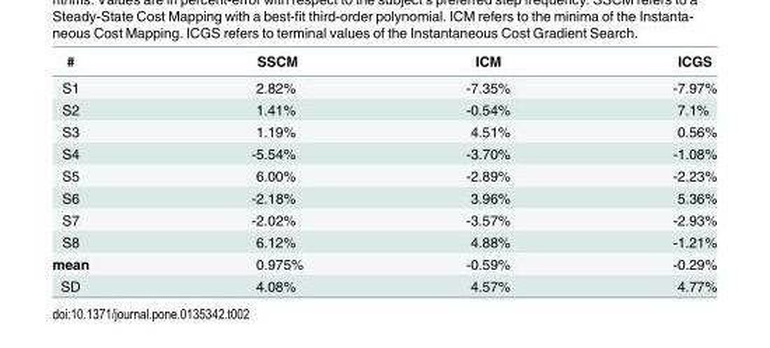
<table><thead><tr><td>#</td><td>SSCM</td><td>ICM</td><td>ICGS</td></tr></thead><tbody><tr><td>S1</td><td>2.82%</td><td>-7.35%</td><td>-7.97%</td></tr><tr><td>S2</td><td>1.41%</td><td>-0.54%</td><td>7.1%</td></tr><tr><td>S3</td><td>1.19%</td><td>4.51%</td><td>0.56%</td></tr><tr><td>S4</td><td>-5.54%</td><td>-3.70%</td><td>-1.08%</td></tr><tr><td>S5</td><td>6.00%</td><td>-2.89%</td><td>-2.23%</td></tr><tr><td>S6</td><td>-2.18%</td><td>3.96%</td><td>5.36%</td></tr><tr><td>S7</td><td>-2.02%</td><td>-3.57%</td><td>-2.93%</td></tr><tr><td>S8</td><td>6.12%</td><td>4.88%</td><td>-1.21%</td></tr><tr><td>mean</td><td>0.975%</td><td>-0.59%</td><td>-0.29%</td></tr><tr><td>SD</td><td>4.08%</td><td>4.57%</td><td>4.77%</td></tr></tbody></table>